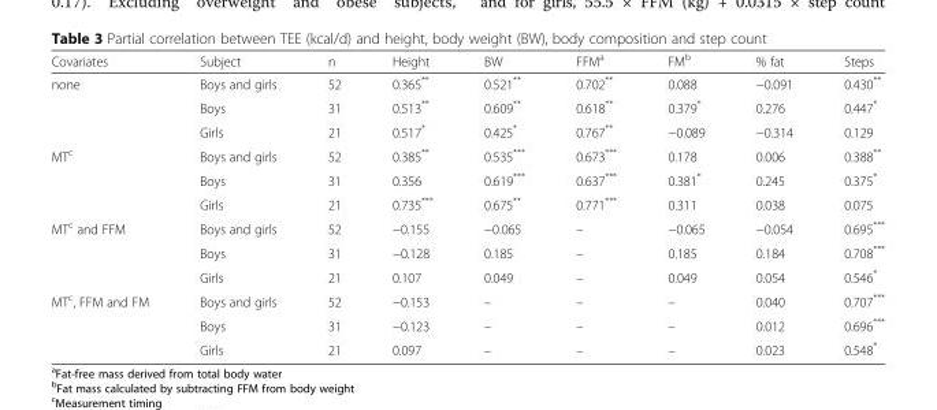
<table><thead><tr><td>Covariates</td><td>Subject</td><td>n</td><td>Height</td><td>BW</td><td>FFM<sup>a</sup></td><td>FM<sup>b</sup></td><td>% fat</td><td>Steps</td></tr></thead><tbody><tr><td rowspan="3">none</td><td>Boys and girls</td><td>52</td><td>0.365**</td><td>0.521**</td><td>0.702**</td><td>0.088</td><td>−0.091</td><td>0.430**</td></tr><tr><td>Boys</td><td>31</td><td>0.513**</td><td>0.609**</td><td>0.618**</td><td>0.379*</td><td>0.276</td><td>0.447*</td></tr><tr><td>Girls</td><td>21</td><td>0.517*</td><td>0.425*</td><td>0.767**</td><td>−0.089</td><td>−0.314</td><td>0.129</td></tr><tr><td rowspan="3">MT<sup>c</sup></td><td>Boys and girls</td><td>52</td><td>0.385**</td><td>0.535***</td><td>0.673***</td><td>0.178</td><td>0.006</td><td>0.388**</td></tr><tr><td>Boys</td><td>31</td><td>0.356</td><td>0.619***</td><td>0.637***</td><td>0.381*</td><td>0.245</td><td>0.375*</td></tr><tr><td>Girls</td><td>21</td><td>0.735***</td><td>0.675**</td><td>0.771***</td><td>0.311</td><td>0.038</td><td>0.075</td></tr><tr><td rowspan="3">MT<sup>c</sup> and FFM</td><td>Boys and girls</td><td>52</td><td>−0.155</td><td>−0.065</td><td>–</td><td>−0.065</td><td>−0.054</td><td>0.695***</td></tr><tr><td>Boys</td><td>31</td><td>−0.128</td><td>0.185</td><td>–</td><td>0.185</td><td>0.184</td><td>0.708***</td></tr><tr><td>Girls</td><td>21</td><td>0.107</td><td>0.049</td><td>–</td><td>0.049</td><td>0.054</td><td>0.546*</td></tr><tr><td rowspan="3">MT<sup>c</sup>, FFM and FM</td><td>Boys and girls</td><td>52</td><td>−0.153</td><td>–</td><td>–</td><td>–</td><td>0.040</td><td>0.707***</td></tr><tr><td>Boys</td><td>31</td><td>−0.123</td><td>–</td><td>–</td><td>–</td><td>0.012</td><td>0.696***</td></tr><tr><td>Girls</td><td>21</td><td>0.097</td><td>–</td><td>–</td><td>–</td><td>0.023</td><td>0.548*</td></tr></tbody></table>